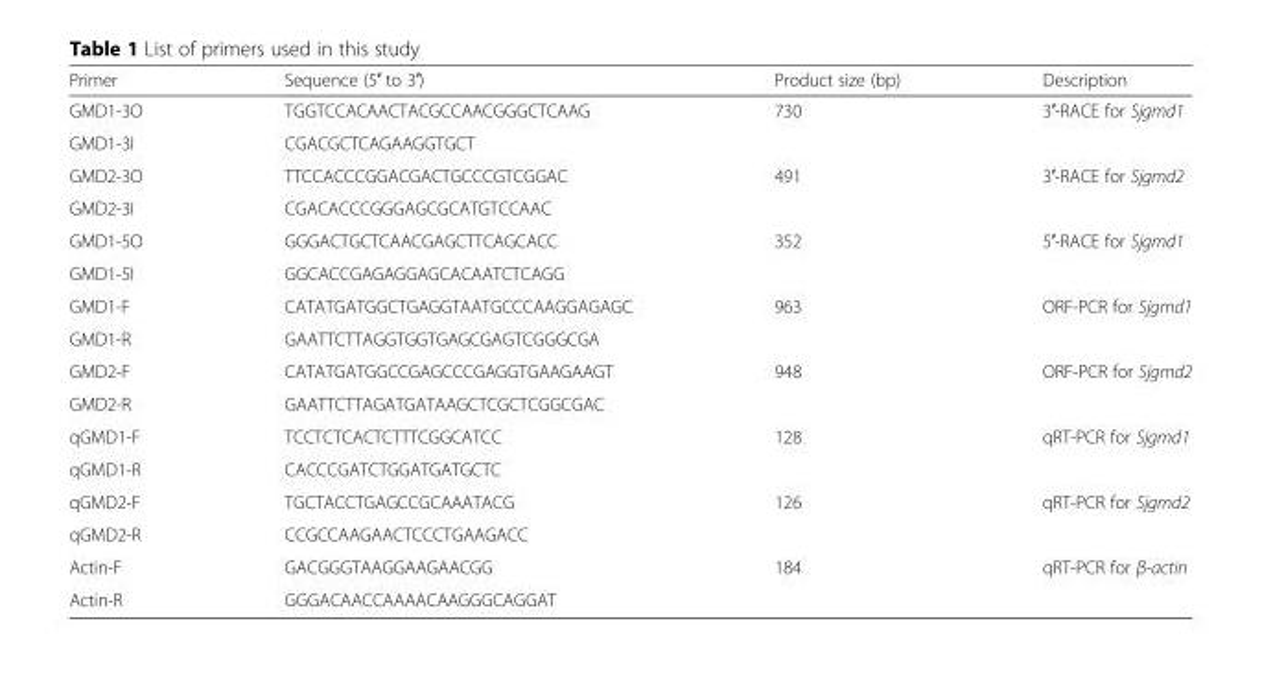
<table><thead><tr><td>Primer</td><td>Sequence (5′ to 3′)</td><td>Product size (bp)</td><td>Description</td></tr></thead><tbody><tr><td>GMD1-3O</td><td>TGGTCCACAACTACGCCAACGGGCTCAAG</td><td rowspan="2">730</td><td rowspan="2">3′-RACE for Sjgmd1</td></tr><tr><td>GMD1-3I</td><td>CGACGCTCAGAAGGTGCT</td></tr><tr><td>GMD2-3O</td><td>TTCCACCCGGACGACTGCCCGTCGGAC</td><td rowspan="2">491</td><td rowspan="2">3′-RACE for Sjgmd2</td></tr><tr><td>GMD2-3I</td><td>CGACACCCGGGAGCGCATGTCCAAC</td></tr><tr><td>GMD1-5O</td><td>GGGACTGCTCAACGAGCTTCAGCACC</td><td rowspan="2">352</td><td rowspan="2">5′-RACE for Sjgmd1</td></tr><tr><td>GMD1-5I</td><td>GGCACCGAGAGGAGCACAATCTCAGG</td></tr><tr><td>GMD1-F</td><td>CATATGATGGCTGAGGTAATGCCCAAGGAGAGC</td><td rowspan="2">963</td><td rowspan="2">ORF-PCR for Sjgmd1</td></tr><tr><td>GMD1-R</td><td>GAATTCTTAGGTGGTGAGCGAGTCGGGCGA</td></tr><tr><td>GMD2-F</td><td>CATATGATGGCCGAGCCCGAGGTGAAGAAGT</td><td rowspan="2">948</td><td rowspan="2">ORF-PCR for Sjgmd2</td></tr><tr><td>GMD2-R</td><td>GAATTCTTAGATGATAAGCTCGCTCGGCGAC</td></tr><tr><td>qGMD1-F</td><td>TCCTCTCACTCTTTCGGCATCC</td><td rowspan="2">128</td><td rowspan="2">qRT-PCR for Sjgmd1</td></tr><tr><td>qGMD1-R</td><td>CACCCGATCTGGATGATGCTC</td></tr><tr><td>qGMD2-F</td><td>TGCTACCTGAGCCGCAAATACG</td><td rowspan="2">126</td><td rowspan="2">qRT-PCR for Sjgmd2</td></tr><tr><td>qGMD2-R</td><td>CCGCCAAGAACTCCCTGAAGACC</td></tr><tr><td>Actin-F</td><td>GACGGGTAAGGAAGAACGG</td><td rowspan="2">184</td><td rowspan="2">qRT-PCR for β-actin</td></tr><tr><td>Actin-R</td><td>GGGACAACCAAAACAAGGGCAGGAT</td></tr></tbody></table>